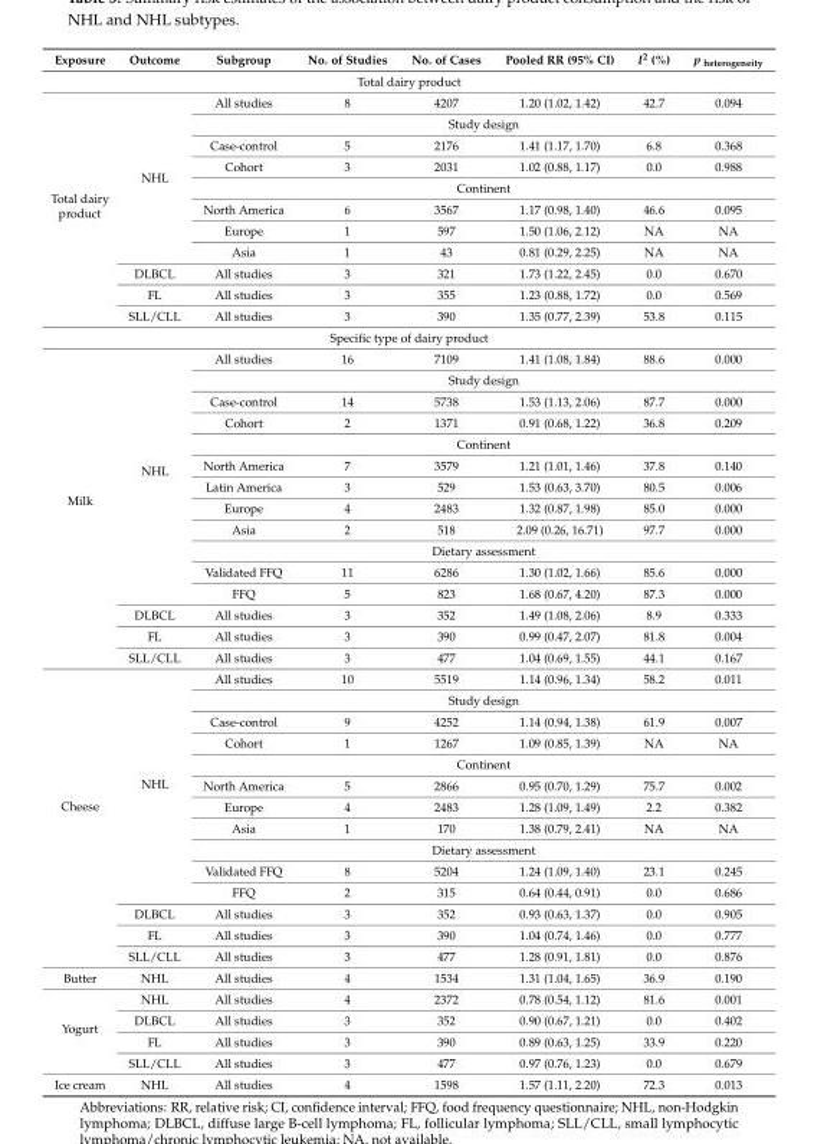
<table><thead><tr><td>Exposure</td><td>Outcome</td><td>Subgroup</td><td>No. of Studies</td><td>No. of Cases</td><td>Pooled RR (95% CI)</td><td>I<sup>2</sup> (%)</td><td>p <sub>heterogeneity</sub></td></tr></thead><tbody><tr><td colspan="8">Total dairy product</td></tr><tr><td rowspan="11">Total dairy product</td><td rowspan="8">NHL</td><td>All studies</td><td>8</td><td>4207</td><td>1.20 (1.02, 1.42)</td><td>42.7</td><td>0.094</td></tr><tr><td colspan="6">Study design</td></tr><tr><td>Case-control</td><td>5</td><td>2176</td><td>1.41 (1.17, 1.70)</td><td>6.8</td><td>0.368</td></tr><tr><td>Cohort</td><td>3</td><td>2031</td><td>1.02 (0.88, 1.17)</td><td>0.0</td><td>0.988</td></tr><tr><td colspan="6">Continent</td></tr><tr><td>North America</td><td>6</td><td>3567</td><td>1.17 (0.98, 1.40)</td><td>46.6</td><td>0.095</td></tr><tr><td>Europe</td><td>1</td><td>597</td><td>1.50 (1.06, 2.12)</td><td>NA</td><td>NA</td></tr><tr><td>Asia</td><td>1</td><td>43</td><td>0.81 (0.29, 2.25)</td><td>NA</td><td>NA</td></tr><tr><td>DLBCL</td><td>All studies</td><td>3</td><td>321</td><td>1.73 (1.22, 2.45)</td><td>0.0</td><td>0.670</td></tr><tr><td>FL</td><td>All studies</td><td>3</td><td>355</td><td>1.23 (0.88, 1.72)</td><td>0.0</td><td>0.569</td></tr><tr><td>SLL/CLL</td><td>All studies</td><td>3</td><td>390</td><td>1.35 (0.77, 2.39)</td><td>53.8</td><td>0.115</td></tr><tr><td colspan="8">Specific type of dairy product</td></tr><tr><td rowspan="15">Milk</td><td rowspan="12">NHL</td><td>All studies</td><td>16</td><td>7109</td><td>1.41 (1.08, 1.84)</td><td>88.6</td><td>0.000</td></tr><tr><td colspan="6">Study design</td></tr><tr><td>Case-control</td><td>14</td><td>5738</td><td>1.53 (1.13, 2.06)</td><td>87.7</td><td>0.000</td></tr><tr><td>Cohort</td><td>2</td><td>1371</td><td>0.91 (0.68, 1.22)</td><td>36.8</td><td>0.209</td></tr><tr><td colspan="6">Continent</td></tr><tr><td>North America</td><td>7</td><td>3579</td><td>1.21 (1.01, 1.46)</td><td>37.8</td><td>0.140</td></tr><tr><td>Latin America</td><td>3</td><td>529</td><td>1.53 (0.63, 3.70)</td><td>80.5</td><td>0.006</td></tr><tr><td>Europe</td><td>4</td><td>2483</td><td>1.32 (0.87, 1.98)</td><td>85.0</td><td>0.000</td></tr><tr><td>Asia</td><td>2</td><td>518</td><td>2.09 (0.26, 16.71)</td><td>97.7</td><td>0.000</td></tr><tr><td colspan="6">Dietary assessment</td></tr><tr><td>Validated FFQ</td><td>11</td><td>6286</td><td>1.30 (1.02, 1.66)</td><td>85.6</td><td>0.000</td></tr><tr><td>FFQ</td><td>5</td><td>823</td><td>1.68 (0.67, 4.20)</td><td>87.3</td><td>0.000</td></tr><tr><td>DLBCL</td><td>All studies</td><td>3</td><td>352</td><td>1.49 (1.08, 2.06)</td><td>8.9</td><td>0.333</td></tr><tr><td>FL</td><td>All studies</td><td>3</td><td>390</td><td>0.99 (0.47, 2.07)</td><td>81.8</td><td>0.004</td></tr><tr><td>SLL/CLL</td><td>All studies</td><td>3</td><td>477</td><td>1.04 (0.69, 1.55)</td><td>44.1</td><td>0.167</td></tr><tr><td rowspan="14">Cheese</td><td rowspan="11">NHL</td><td>All studies</td><td>10</td><td>5519</td><td>1.14 (0.96, 1.34)</td><td>58.2</td><td>0.011</td></tr><tr><td colspan="6">Study design</td></tr><tr><td>Case-control</td><td>9</td><td>4252</td><td>1.14 (0.94, 1.38)</td><td>61.9</td><td>0.007</td></tr><tr><td>Cohort</td><td>1</td><td>1267</td><td>1.09 (0.85, 1.39)</td><td>NA</td><td>NA</td></tr><tr><td colspan="6">Continent</td></tr><tr><td>North America</td><td>5</td><td>2866</td><td>0.95 (0.70, 1.29)</td><td>75.7</td><td>0.002</td></tr><tr><td>Europe</td><td>4</td><td>2483</td><td>1.28 (1.09, 1.49)</td><td>2.2</td><td>0.382</td></tr><tr><td>Asia</td><td>1</td><td>170</td><td>1.38 (0.79, 2.41)</td><td>NA</td><td>NA</td></tr><tr><td colspan="6">Dietary assessment</td></tr><tr><td>Validated FFQ</td><td>8</td><td>5204</td><td>1.24 (1.09, 1.40)</td><td>23.1</td><td>0.245</td></tr><tr><td>FFQ</td><td>2</td><td>315</td><td>0.64 (0.44, 0.91)</td><td>0.0</td><td>0.686</td></tr><tr><td>DLBCL</td><td>All studies</td><td>3</td><td>352</td><td>0.93 (0.63, 1.37)</td><td>0.0</td><td>0.905</td></tr><tr><td>FL</td><td>All studies</td><td>3</td><td>390</td><td>1.04 (0.74, 1.46)</td><td>0.0</td><td>0.777</td></tr><tr><td>SLL/CLL</td><td>All studies</td><td>3</td><td>477</td><td>1.28 (0.91, 1.81)</td><td>0.0</td><td>0.876</td></tr><tr><td>Butter</td><td>NHL</td><td>All studies</td><td>4</td><td>1534</td><td>1.31 (1.04, 1.65)</td><td>36.9</td><td>0.190</td></tr><tr><td rowspan="4">Yogurt</td><td>NHL</td><td>All studies</td><td>4</td><td>2372</td><td>0.78 (0.54, 1.12)</td><td>81.6</td><td>0.001</td></tr><tr><td>DLBCL</td><td>All studies</td><td>3</td><td>352</td><td>0.90 (0.67, 1.21)</td><td>0.0</td><td>0.402</td></tr><tr><td>FL</td><td>All studies</td><td>3</td><td>390</td><td>0.89 (0.63, 1.25)</td><td>33.9</td><td>0.220</td></tr><tr><td>SLL/CLL</td><td>All studies</td><td>3</td><td>477</td><td>0.97 (0.76, 1.23)</td><td>0.0</td><td>0.679</td></tr><tr><td>Ice cream</td><td>NHL</td><td>All studies</td><td>4</td><td>1598</td><td>1.57 (1.11, 2.20)</td><td>72.3</td><td>0.013</td></tr></tbody></table>